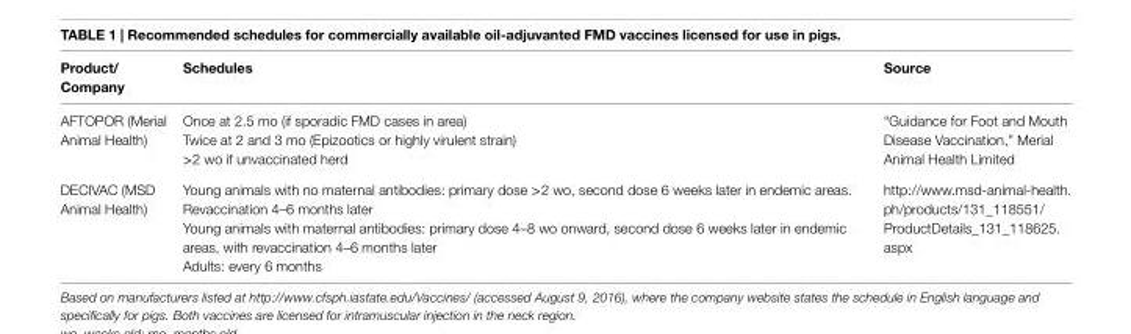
<table><thead><tr><td>Product/ Company</td><td>Schedules</td><td>Source</td></tr></thead><tbody><tr><td rowspan="3">AFTOPOR (Merial Animal Health)</td><td>Once at 2.5 mo (if sporadic FMD cases in area)</td><td rowspan="3">“Guidance for Foot and Mouth Disease Vaccination,” Merial Animal Health Limited</td></tr><tr><td>Twice at 2 and 3 mo (Epizootics or highly virulent strain)</td></tr><tr><td>&gt;2 wo if unvaccinated herd</td></tr><tr><td rowspan="3">DECIVAC (MSD Animal Health)</td><td>Young animals with no maternal antibodies: primary dose &gt;2 wo, second dose 6 weeks later in endemic areas. Revaccination 4–6 months later</td><td rowspan="3">http://www.msd-animal-health. ph/products/131_118551/ ProductDetails_131_118625. aspx</td></tr><tr><td>Young animals with maternal antibodies: primary dose 4–8 wo onward, second dose 6 weeks later in endemic areas, with revaccination 4–6 months later</td></tr><tr><td>Adults: every 6 months</td></tr></tbody></table>